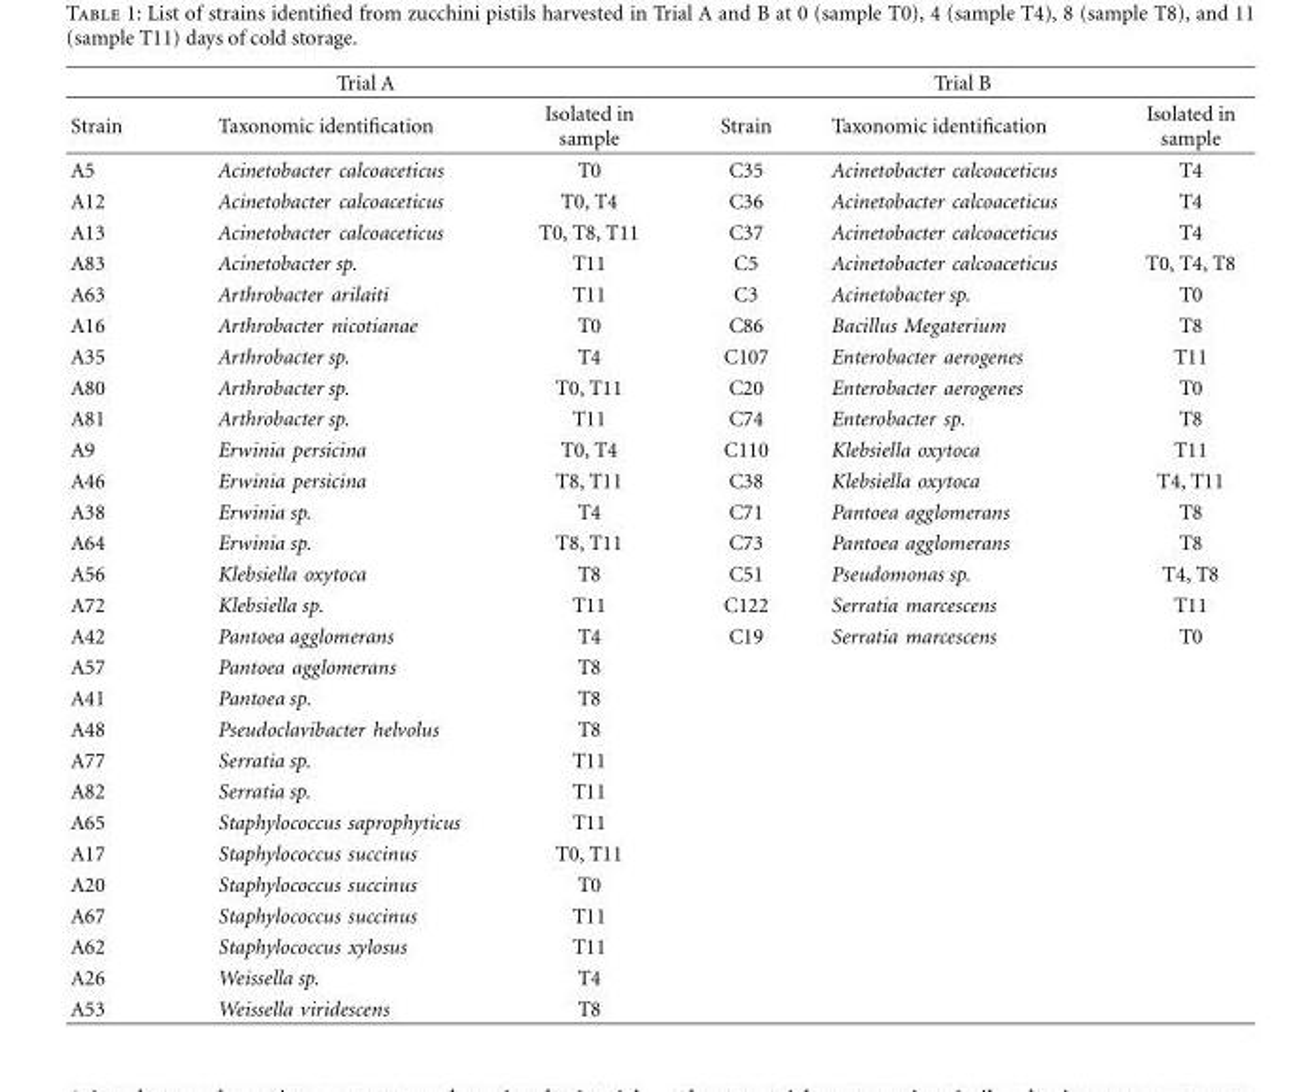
<table><thead><tr><td colspan="3">Trial A</td><td colspan="3">Trial B</td></tr><tr><td>Strain</td><td>Taxonomic identification</td><td>Isolated in sample</td><td>Strain</td><td>Taxonomic identification</td><td>Isolated in sample</td></tr></thead><tbody><tr><td>A5</td><td>Acinetobacter calcoaceticus</td><td>T0</td><td>C35</td><td>Acinetobacter calcoaceticus</td><td>T4</td></tr><tr><td>A12</td><td>Acinetobacter calcoaceticus</td><td>T0, T4</td><td>C36</td><td>Acinetobacter calcoaceticus</td><td>T4</td></tr><tr><td>A13</td><td>Acinetobacter calcoaceticus</td><td>T0, T8, T11</td><td>C37</td><td>Acinetobacter calcoaceticus</td><td>T4</td></tr><tr><td>A83</td><td>Acinetobacter sp.</td><td>T11</td><td>C5</td><td>Acinetobacter calcoaceticus</td><td>T0, T4, T8</td></tr><tr><td>A63</td><td>Arthrobacter arilaiti</td><td>T11</td><td>C3</td><td>Acinetobacter sp.</td><td>T0</td></tr><tr><td>A16</td><td>Arthrobacter nicotianae</td><td>T0</td><td>C86</td><td>Bacillus Megaterium</td><td>T8</td></tr><tr><td>A35</td><td>Arthrobacter sp.</td><td>T4</td><td>C107</td><td>Enterobacter aerogenes</td><td>T11</td></tr><tr><td>A80</td><td>Arthrobacter sp.</td><td>T0, T11</td><td>C20</td><td>Enterobacter aerogenes</td><td>T0</td></tr><tr><td>A81</td><td>Arthrobacter sp.</td><td>T11</td><td>C74</td><td>Enterobacter sp.</td><td>T8</td></tr><tr><td>A9</td><td>Erwinia persicina</td><td>T0, T4</td><td>C110</td><td>Klebsiella oxytoca</td><td>T11</td></tr><tr><td>A46</td><td>Erwinia persicina</td><td>T8, T11</td><td>C38</td><td>Klebsiella oxytoca</td><td>T4, T11</td></tr><tr><td>A38</td><td>Erwinia sp.</td><td>T4</td><td>C71</td><td>Pantoea agglomerans</td><td>T8</td></tr><tr><td>A64</td><td>Erwinia sp.</td><td>T8, T11</td><td>C73</td><td>Pantoea agglomerans</td><td>T8</td></tr><tr><td>A56</td><td>Klebsiella oxytoca</td><td>T8</td><td>C51</td><td>Pseudomonas sp.</td><td>T4, T8</td></tr><tr><td>A72</td><td>Klebsiella sp.</td><td>T11</td><td>C122</td><td>Serratia marcescens</td><td>T11</td></tr><tr><td>A42</td><td>Pantoea agglomerans</td><td>T4</td><td>C19</td><td>Serratia marcescens</td><td>T0</td></tr><tr><td>A57</td><td>Pantoea agglomerans</td><td>T8</td><td></td><td></td><td></td></tr><tr><td>A41</td><td>Pantoea sp.</td><td>T8</td><td></td><td></td><td></td></tr><tr><td>A48</td><td>Pseudoclavibacter helvolus</td><td>T8</td><td></td><td></td><td></td></tr><tr><td>A77</td><td>Serratia sp.</td><td>T11</td><td></td><td></td><td></td></tr><tr><td>A82</td><td>Serratia sp.</td><td>T11</td><td></td><td></td><td></td></tr><tr><td>A65</td><td>Staphylococcus saprophyticus</td><td>T11</td><td></td><td></td><td></td></tr><tr><td>A17</td><td>Staphylococcus succinus</td><td>T0, T11</td><td></td><td></td><td></td></tr><tr><td>A20</td><td>Staphylococcus succinus</td><td>T0</td><td></td><td></td><td></td></tr><tr><td>A67</td><td>Staphylococcus succinus</td><td>T11</td><td></td><td></td><td></td></tr><tr><td>A62</td><td>Staphylococcus xylosus</td><td>T11</td><td></td><td></td><td></td></tr><tr><td>A26</td><td>Weissella sp.</td><td>T4</td><td></td><td></td><td></td></tr><tr><td>A53</td><td>Weissella viridescens</td><td>T8</td><td></td><td></td><td></td></tr></tbody></table>